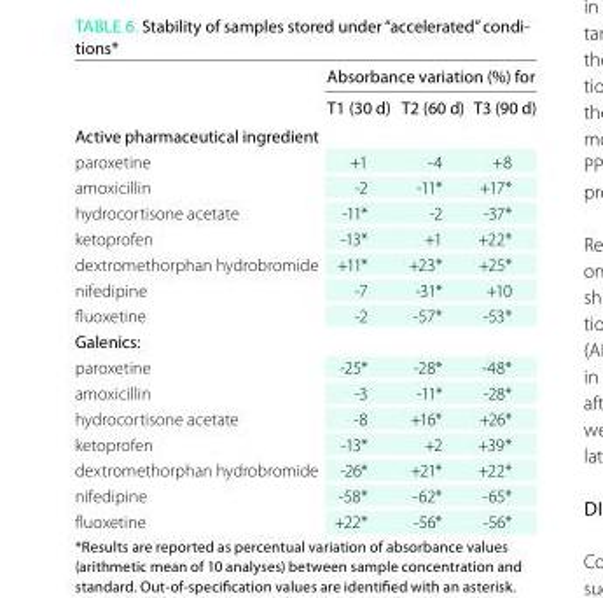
<table><thead><tr><td rowspan="2"></td><td colspan="3">Absorbance variation (%) for</td></tr><tr><td>t1 (30 d)</td><td>t2 (60 d)</td><td>t3 (90 d)</td></tr></thead><tbody><tr><td colspan="4">Active pharmaceutical ingredient</td></tr><tr><td>paroxetine</td><td>+1</td><td>-4</td><td>+8</td></tr><tr><td>amoxicillin</td><td>-2</td><td>-11*</td><td>+17*</td></tr><tr><td>hydrocortisone acetate</td><td>-11*</td><td>-2</td><td>-37*</td></tr><tr><td>ketoprofen</td><td>-13*</td><td>+1</td><td>+22*</td></tr><tr><td>dextromethorphan hydrobromide</td><td>+11*</td><td>+23*</td><td>+25*</td></tr><tr><td>nifedipine</td><td>-7</td><td>-31*</td><td>+10</td></tr><tr><td>fluoxetine</td><td>-2</td><td>-57*</td><td>-53*</td></tr><tr><td colspan="4">Galenics:</td></tr><tr><td>paroxetine</td><td>-25*</td><td>-28*</td><td>-48*</td></tr><tr><td>amoxicillin</td><td>-3</td><td>-11*</td><td>-28*</td></tr><tr><td>hydrocortisone acetate</td><td>-8</td><td>+16*</td><td>+26*</td></tr><tr><td>ketoprofen</td><td>-13*</td><td>+2</td><td>+39*</td></tr><tr><td>dextromethorphan hydrobromide</td><td>-26*</td><td>+21*</td><td>+22*</td></tr><tr><td>nifedipine</td><td>-58*</td><td>-62*</td><td>-65*</td></tr><tr><td>fluoxetine</td><td>+22*</td><td>-56*</td><td>-56*</td></tr></tbody></table>